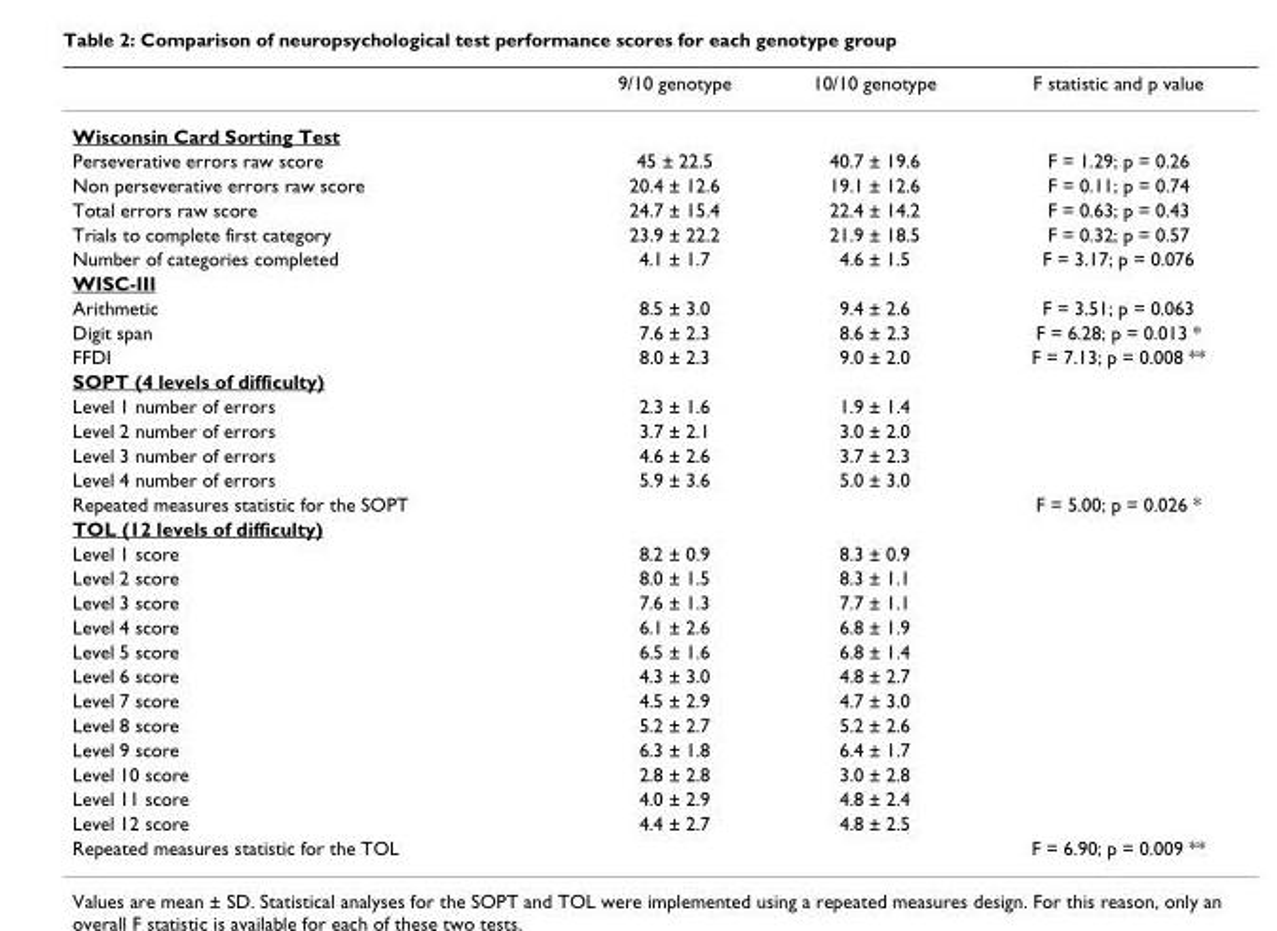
<table><thead><tr><td></td><td>9/10 genotype</td><td>10/10 genotype</td><td>F statistic and p value</td></tr></thead><tbody><tr><td colspan="4">Wisconsin Card Sorting Test</td></tr><tr><td>Perseverative errors raw score</td><td>45 ± 22.5</td><td>40.7 ± 19.6</td><td>F = 1.29; p = 0.26</td></tr><tr><td>Non perseverative errors raw score</td><td>20.4 ± 12.6</td><td>19.1 ± 12.6</td><td>F = 0.11; p = 0.74</td></tr><tr><td>Total errors raw score</td><td>24.7 ± 15.4</td><td>22.4 ± 14.2</td><td>F = 0.63; p = 0.43</td></tr><tr><td>Trials to complete first category</td><td>23.9 ± 22.2</td><td>21.9 ± 18.5</td><td>F = 0.32; p = 0.57</td></tr><tr><td>Number of categories completed</td><td>4.1 ± 1.7</td><td>4.6 ± 1.5</td><td>F = 3.17; p = 0.076</td></tr><tr><td colspan="4">WISC-III</td></tr><tr><td>Arithmetic</td><td>8.5 ± 3.0</td><td>9.4 ± 2.6</td><td>F = 3.51; p = 0.063</td></tr><tr><td>Digit span</td><td>7.6 ± 2.3</td><td>8.6 ± 2.3</td><td>F = 6.28; p = 0.013 *</td></tr><tr><td>FFDI</td><td>8.0 ± 2.3</td><td>9.0 ± 2.0</td><td>F = 7.13; p = 0.008 **</td></tr><tr><td colspan="4">SOPT (4 levels of difficulty)</td></tr><tr><td>Level 1 number of errors</td><td>2.3 ± 1.6</td><td>1.9 ± 1.4</td><td></td></tr><tr><td>Level 2 number of errors</td><td>3.7 ± 2.1</td><td>3.0 ± 2.0</td><td></td></tr><tr><td>Level 3 number of errors</td><td>4.6 ± 2.6</td><td>3.7 ± 2.3</td><td></td></tr><tr><td>Level 4 number of errors</td><td>5.9 ± 3.6</td><td>5.0 ± 3.0</td><td></td></tr><tr><td>Repeated measures statistic for the SOPT</td><td></td><td></td><td>F = 5.00; p = 0.026 *</td></tr><tr><td colspan="4">TOL (12 levels of difficulty)</td></tr><tr><td>Level 1 score</td><td>8.2 ± 0.9</td><td>8.3 ± 0.9</td><td></td></tr><tr><td>Level 2 score</td><td>8.0 ± 1.5</td><td>8.3 ± 1.1</td><td></td></tr><tr><td>Level 3 score</td><td>7.6 ± 1.3</td><td>7.7 ± 1.1</td><td></td></tr><tr><td>Level 4 score</td><td>6.1 ± 2.6</td><td>6.8 ± 1.9</td><td></td></tr><tr><td>Level 5 score</td><td>6.5 ± 1.6</td><td>6.8 ± 1.4</td><td></td></tr><tr><td>Level 6 score</td><td>4.3 ± 3.0</td><td>4.8 ± 2.7</td><td></td></tr><tr><td>Level 7 score</td><td>4.5 ± 2.9</td><td>4.7 ± 3.0</td><td></td></tr><tr><td>Level 8 score</td><td>5.2 ± 2.7</td><td>5.2 ± 2.6</td><td></td></tr><tr><td>Level 9 score</td><td>6.3 ± 1.8</td><td>6.4 ± 1.7</td><td></td></tr><tr><td>Level 10 score</td><td>2.8 ± 2.8</td><td>3.0 ± 2.8</td><td></td></tr><tr><td>Level 11 score</td><td>4.0 ± 2.9</td><td>4.8 ± 2.4</td><td></td></tr><tr><td>Level 12 score</td><td>4.4 ± 2.7</td><td>4.8 ± 2.5</td><td></td></tr><tr><td>Repeated measures statistic for the TOL</td><td></td><td></td><td>F = 6.90; p = 0.009 **</td></tr></tbody></table>